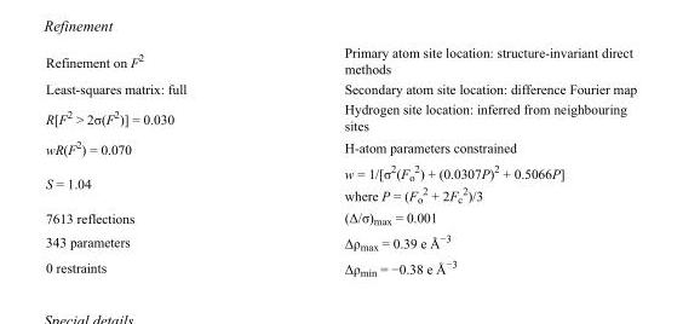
<table><tbody><tr><td>Refinement on F<sup>2</sup></td><td>Primary atom site location: structure-invariant direct methods</td></tr><tr><td>Least-squares matrix: full</td><td>Secondary atom site location: difference Fourier map</td></tr><tr><td>R[F<sup>2</sup> &gt; 2σ(F<sup>2</sup>)] = 0.030</td><td>Hydrogen site location: inferred from neighbouring sites</td></tr><tr><td>wR(F<sup>2</sup>) = 0.070</td><td>H-atom parameters constrained</td></tr><tr><td>S = 1.04</td><td>w = 1/[σ<sup>2</sup>(F<sub>o</sub> <sup>2</sup>) + (0.0307P)<sup>2</sup> + 0.5066P] where P = (F<sub>o</sub> <sup>2</sup> + 2F<sub>c</sub> <sup>2</sup>)/3</td></tr><tr><td>7613 reflections</td><td>(Δ/σ)<sub>max</sub> = 0.001</td></tr><tr><td>343 parameters</td><td>Δρ<sub>max</sub> = 0.39 e Å<sup>−3</sup></td></tr><tr><td>0 restraints</td><td>Δρ<sub>min</sub> = −0.38 e Å<sup>−3</sup></td></tr></tbody></table>